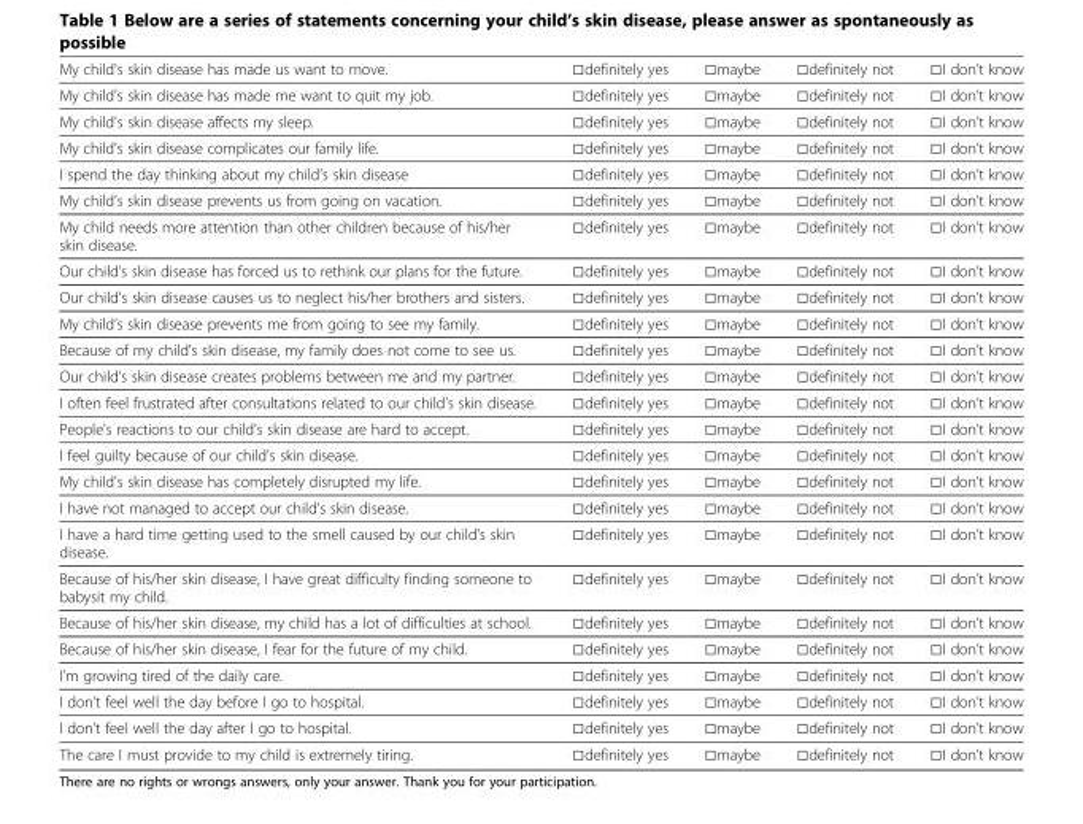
<table><tbody><tr><td>My child&#x27;s skin disease has made us want to move.</td><td>□definitely yes</td><td>□maybe</td><td>□definitely not</td><td>□I don’t know</td></tr><tr><td>My child&#x27;s skin disease has made me want to quit my job.</td><td>□definitely yes</td><td>□maybe</td><td>□definitely not</td><td>□I don’t know</td></tr><tr><td>My child&#x27;s skin disease affects my sleep.</td><td>□definitely yes</td><td>□maybe</td><td>□definitely not</td><td>□I don’t know</td></tr><tr><td>My child&#x27;s skin disease complicates our family life.</td><td>□definitely yes</td><td>□maybe</td><td>□definitely not</td><td>□I don’t know</td></tr><tr><td>I spend the day thinking about my child’s skin disease</td><td>□definitely yes</td><td>□maybe</td><td>□definitely not</td><td>□I don’t know</td></tr><tr><td>My child’s skin disease prevents us from going on vacation.</td><td>□definitely yes</td><td>□maybe</td><td>□definitely not</td><td>□I don’t know</td></tr><tr><td>My child needs more attention than other children because of his/her skin disease.</td><td>□definitely yes</td><td>□maybe</td><td>□definitely not</td><td>□I don’t know</td></tr><tr><td>Our child’s skin disease has forced us to rethink our plans for the future.</td><td>□definitely yes</td><td>□maybe</td><td>□definitely not</td><td>□I don’t know</td></tr><tr><td>Our child&#x27;s skin disease causes us to neglect his/her brothers and sisters.</td><td>□definitely yes</td><td>□maybe</td><td>□definitely not</td><td>□I don’t know</td></tr><tr><td>My child’s skin disease prevents me from going to see my family.</td><td>□definitely yes</td><td>□maybe</td><td>□definitely not</td><td>□I don’t know</td></tr><tr><td>Because of my child’s skin disease, my family does not come to see us.</td><td>□definitely yes</td><td>□maybe</td><td>□definitely not</td><td>□I don’t know</td></tr><tr><td>Our child’s skin disease creates problems between me and my partner.</td><td>□definitely yes</td><td>□maybe</td><td>□definitely not</td><td>□I don’t know</td></tr><tr><td>I often feel frustrated after consultations related to our child’s skin disease.</td><td>□definitely yes</td><td>□maybe</td><td>□definitely not</td><td>□I don’t know</td></tr><tr><td>People&#x27;s reactions to our child&#x27;s skin disease are hard to accept.</td><td>□definitely yes</td><td>□maybe</td><td>□definitely not</td><td>□I don’t know</td></tr><tr><td>I feel guilty because of our child&#x27;s skin disease.</td><td>□definitely yes</td><td>□maybe</td><td>□definitely not</td><td>□I don’t know</td></tr><tr><td>My child&#x27;s skin disease has completely disrupted my life.</td><td>□definitely yes</td><td>□maybe</td><td>□definitely not</td><td>□I don’t know</td></tr><tr><td>I have not managed to accept our child&#x27;s skin disease.</td><td>□definitely yes</td><td>□maybe</td><td>□definitely not</td><td>□I don’t know</td></tr><tr><td>I have a hard time getting used to the smell caused by our child&#x27;s skin disease.</td><td>□definitely yes</td><td>□maybe</td><td>□definitely not</td><td>□I don’t know</td></tr><tr><td>Because of his/her skin disease, I have great difficulty finding someone to babysit my child.</td><td>□definitely yes</td><td>□maybe</td><td>□definitely not</td><td>□I don’t know</td></tr><tr><td>Because of his/her skin disease, my child has a lot of difficulties at school.</td><td>□definitely yes</td><td>□maybe</td><td>□definitely not</td><td>□I don’t know</td></tr><tr><td>Because of his/her skin disease, I fear for the future of my child.</td><td>□definitely yes</td><td>□maybe</td><td>□definitely not</td><td>□I don’t know</td></tr><tr><td>I&#x27;m growing tired of the daily care.</td><td>□definitely yes</td><td>□maybe</td><td>□definitely not</td><td>□I don’t know</td></tr><tr><td>I don’t feel well the day before I go to hospital.</td><td>□definitely yes</td><td>□maybe</td><td>□definitely not</td><td>□I don’t know</td></tr><tr><td>I don’t feel well the day after I go to hospital.</td><td>□definitely yes</td><td>□maybe</td><td>□definitely not</td><td>□I don’t know</td></tr><tr><td>The care I must provide to my child is extremely tiring.</td><td>□definitely yes</td><td>□maybe</td><td>□definitely not</td><td>□I don’t know</td></tr></tbody></table>